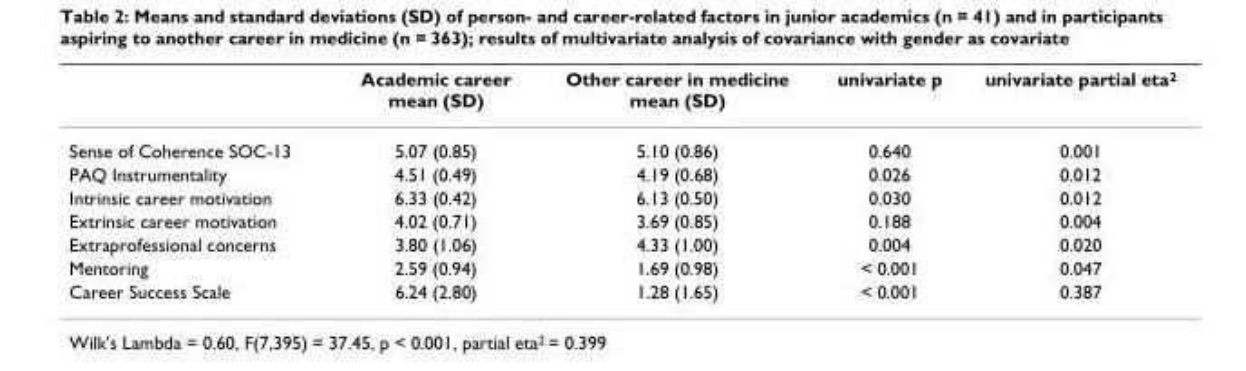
<table><thead><tr><td></td><td>Academic career mean (SD)</td><td>Other career in medicine mean (SD)</td><td>univariate p</td><td>univariate partial eta<sup>2</sup></td></tr></thead><tbody><tr><td>Sense of Coherence SOC-13</td><td>5.07 (0.85)</td><td>5.10 (0.86)</td><td>0.640</td><td>0.001</td></tr><tr><td>PAQ Instrumentality</td><td>4.51 (0.49)</td><td>4.19 (0.68)</td><td>0.026</td><td>0.012</td></tr><tr><td>Intrinsic career motivation</td><td>6.33 (0.42)</td><td>6.13 (0.50)</td><td>0.030</td><td>0.012</td></tr><tr><td>Extrinsic career motivation</td><td>4.02 (0.71)</td><td>3.69 (0.85)</td><td>0.188</td><td>0.004</td></tr><tr><td>Extraprofessional concerns</td><td>3.80 (1.06)</td><td>4.33 (1.00)</td><td>0.004</td><td>0.020</td></tr><tr><td>Mentoring</td><td>2.59 (0.94)</td><td>1.69 (0.98)</td><td>&lt; 0.001</td><td>0.047</td></tr><tr><td>Career Success Scale</td><td>6.24 (2.80)</td><td>1.28 (1.65)</td><td>&lt; 0.001</td><td>0.387</td></tr></tbody></table>